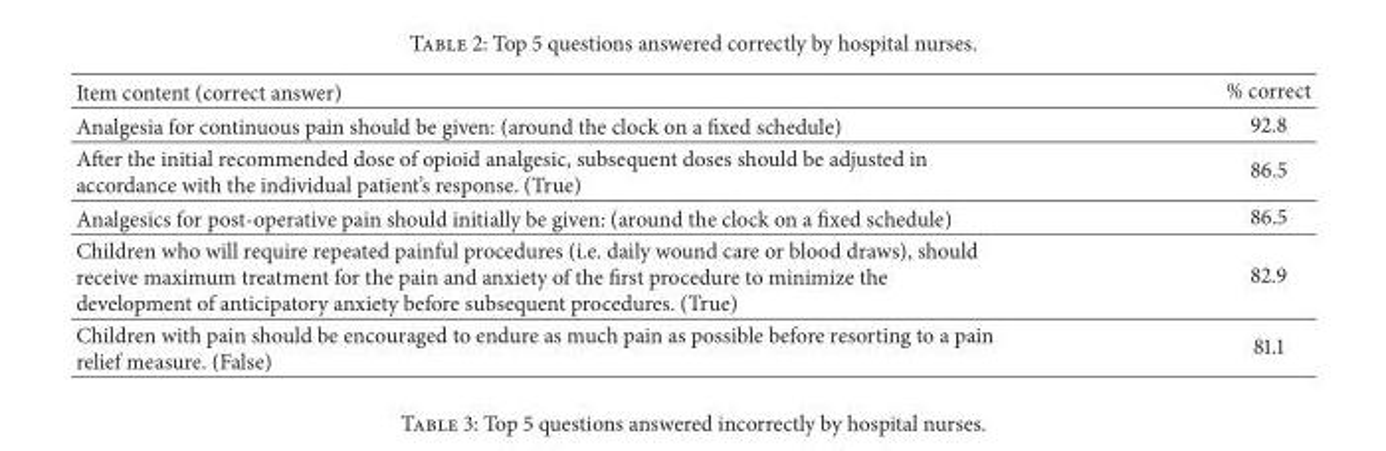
<table><thead><tr><td>Item content (correct answer)</td><td>% correct</td></tr></thead><tbody><tr><td>Analgesia for continuous pain should be given: (around the clock on a fixed schedule)</td><td>92.8</td></tr><tr><td>After the initial recommended dose of opioid analgesic, subsequent doses should be adjusted in accordance with the individual patient’s response. (True)</td><td>86.5</td></tr><tr><td>Analgesics for post-operative pain should initially be given: (around the clock on a fixed schedule)</td><td>86.5</td></tr><tr><td>Children who will require repeated painful procedures (i.e. daily wound care or blood draws), should receive maximum treatment for the pain and anxiety of the first procedure to minimize the development of anticipatory anxiety before subsequent procedures. (True)</td><td>82.9</td></tr><tr><td>Children with pain should be encouraged to endure as much pain as possible before resorting to a pain relief measure. (False)</td><td>81.1</td></tr></tbody></table>